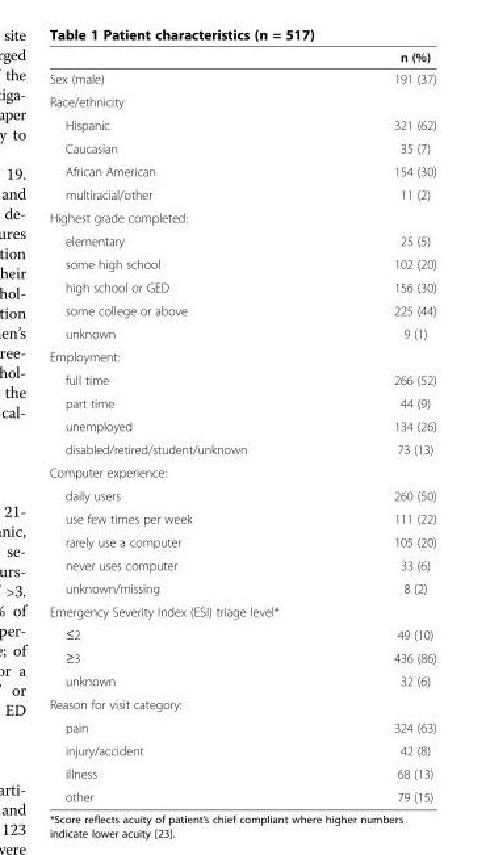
<table><thead><tr><td></td><td>n (%)</td></tr></thead><tbody><tr><td>Sex (male)</td><td>191 (37)</td></tr><tr><td colspan="2">Race/ethnicity</td></tr><tr><td>Hispanic</td><td>321 (62)</td></tr><tr><td>Caucasian</td><td>35 (7)</td></tr><tr><td>African American</td><td>154 (30)</td></tr><tr><td>multiracial/other</td><td>11 (2)</td></tr><tr><td colspan="2">Highest grade completed:</td></tr><tr><td>elementary</td><td>25 (5)</td></tr><tr><td>some high school</td><td>102 (20)</td></tr><tr><td>high school or GED</td><td>156 (30)</td></tr><tr><td>some college or above</td><td>225 (44)</td></tr><tr><td>unknown</td><td>9 (1)</td></tr><tr><td colspan="2">Employment:</td></tr><tr><td>full time</td><td>266 (52)</td></tr><tr><td>part time</td><td>44 (9)</td></tr><tr><td>unemployed</td><td>134 (26)</td></tr><tr><td>disabled/retired/student/unknown</td><td>73 (13)</td></tr><tr><td colspan="2">Computer experience:</td></tr><tr><td>daily users</td><td>260 (50)</td></tr><tr><td>use few times per week</td><td>111 (22)</td></tr><tr><td>rarely use a computer</td><td>105 (20)</td></tr><tr><td>never uses computer</td><td>33 (6)</td></tr><tr><td>unknown/missing</td><td>8 (2)</td></tr><tr><td colspan="2">Emergency Severity Index (ESI) triage level*</td></tr><tr><td>≤2</td><td>49 (10)</td></tr><tr><td>≥3</td><td>436 (86)</td></tr><tr><td>unknown</td><td>32 (6)</td></tr><tr><td colspan="2">Reason for visit category:</td></tr><tr><td>pain</td><td>324 (63)</td></tr><tr><td>injury/accident</td><td>42 (8)</td></tr><tr><td>illness</td><td>68 (13)</td></tr><tr><td>other</td><td>79 (15)</td></tr></tbody></table>